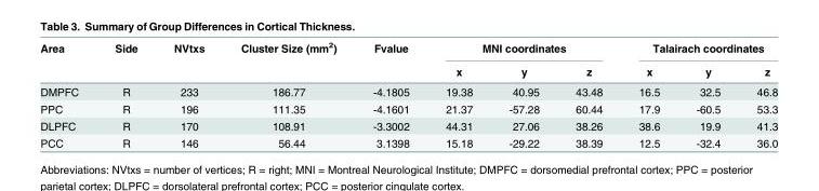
<table><thead><tr><td rowspan="2">Area</td><td rowspan="2">Side</td><td rowspan="2">NVtxs</td><td rowspan="2">Cluster Size (mm<sup>2</sup>)</td><td rowspan="2">Fvalue</td><td colspan="3">MNI coordinates</td><td colspan="3">Talairach coordinates</td></tr><tr><td>x</td><td>y</td><td>z</td><td>x</td><td>y</td><td>z</td></tr></thead><tbody><tr><td>DMPFC</td><td>R</td><td>233</td><td>186.77</td><td>-4.1805</td><td>19.38</td><td>40.95</td><td>43.48</td><td>16.5</td><td>32.5</td><td>46.8</td></tr><tr><td>PPC</td><td>R</td><td>196</td><td>111.35</td><td>-4.1601</td><td>21.37</td><td>-57.28</td><td>60.44</td><td>17.9</td><td>-60.5</td><td>53.3</td></tr><tr><td>DLPFC</td><td>R</td><td>170</td><td>108.91</td><td>-3.3002</td><td>44.31</td><td>27.06</td><td>38.26</td><td>38.6</td><td>19.9</td><td>41.3</td></tr><tr><td>PCC</td><td>R</td><td>146</td><td>56.44</td><td>3.1398</td><td>15.18</td><td>-29.22</td><td>38.39</td><td>12.5</td><td>-32.4</td><td>36.0</td></tr></tbody></table>